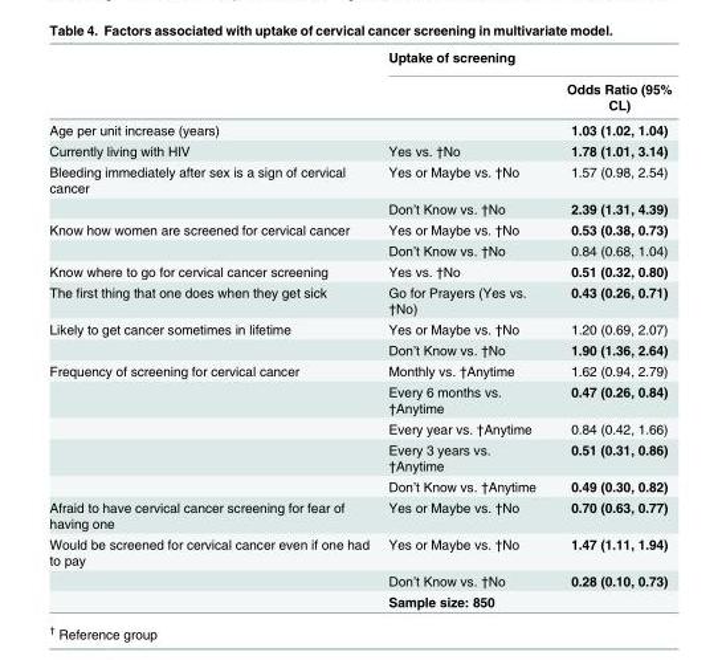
<table><thead><tr><td rowspan="2"></td><td rowspan="2">Uptake of screening</td><td rowspan="2">Odds Ratio (95% CL)</td></tr><tr></tr></thead><tbody><tr><td>Age per unit increase (years)</td><td></td><td>1.03 (1.02, 1.04)</td></tr><tr><td>Currently living with HIV</td><td>Yes vs. †No</td><td>1.78 (1.01, 3.14)</td></tr><tr><td rowspan="2">Bleeding immediately after sex is a sign of cervical cancer</td><td>Yes or Maybe vs. †No</td><td>1.57 (0.98, 2.54)</td></tr><tr><td>Don’t Know vs. †No</td><td>2.39 (1.31, 4.39)</td></tr><tr><td rowspan="2">Know how women are screened for cervical cancer</td><td>Yes or Maybe vs. †No</td><td>0.53 (0.38, 0.73)</td></tr><tr><td>Don’t Know vs. †No</td><td>0.84 (0.68, 1.04)</td></tr><tr><td>Know where to go for cervical cancer screening</td><td>Yes vs. †No</td><td>0.51 (0.32, 0.80)</td></tr><tr><td>The first thing that one does when they get sick</td><td>Go for Prayers (Yes vs. †No)</td><td>0.43 (0.26, 0.71)</td></tr><tr><td rowspan="2">Likely to get cancer sometimes in lifetime</td><td>Yes or Maybe vs. †No</td><td>1.20 (0.69, 2.07)</td></tr><tr><td>Don’t Know vs. †No</td><td>1.90 (1.36, 2.64)</td></tr><tr><td rowspan="5">Frequency of screening for cervical cancer</td><td>Monthly vs. †Anytime</td><td>1.62 (0.94, 2.79)</td></tr><tr><td>Every 6 months vs. †Anytime</td><td>0.47 (0.26, 0.84)</td></tr><tr><td>Every year vs. †Anytime</td><td>0.84 (0.42, 1.66)</td></tr><tr><td>Every 3 years vs. †Anytime</td><td>0.51 (0.31, 0.86)</td></tr><tr><td>Don’t Know vs. †Anytime</td><td>0.49 (0.30, 0.82)</td></tr><tr><td>Afraid to have cervical cancer screening for fear of having one</td><td>Yes or Maybe vs. †No</td><td>0.70 (0.63, 0.77)</td></tr><tr><td rowspan="3">Would be screened for cervical cancer even if one had to pay</td><td>Yes or Maybe vs. †No</td><td>1.47 (1.11, 1.94)</td></tr><tr><td>Don’t Know vs. †No</td><td>0.28 (0.10, 0.73)</td></tr><tr><td>Sample size: 850</td><td></td></tr></tbody></table>